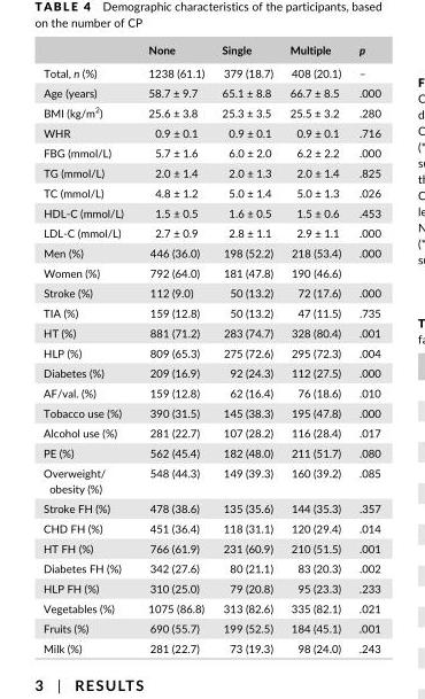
<table><thead><tr><td></td><td>None</td><td>Single</td><td>Multiple</td><td>p</td></tr></thead><tbody><tr><td>Total, n (%)</td><td>1238 (61.1)</td><td>379 (18.7)</td><td>408 (20.1)</td><td>–</td></tr><tr><td>Age (years)</td><td>58.7 ± 9.7</td><td>65.1 ± 8.8</td><td>66.7 ± 8.5</td><td>.000</td></tr><tr><td>BMI (kg/m<sup>2</sup>)</td><td>25.6 ± 3.8</td><td>25.3 ± 3.5</td><td>25.5 ± 3.2</td><td>.280</td></tr><tr><td>WHR</td><td>0.9 ± 0.1</td><td>0.9 ± 0.1</td><td>0.9 ± 0.1</td><td>.716</td></tr><tr><td>FBG (mmol/L)</td><td>5.7 ± 1.6</td><td>6.0 ± 2.0</td><td>6.2 ± 2.2</td><td>.000</td></tr><tr><td>TG (mmol/L)</td><td>2.0 ± 1.4</td><td>2.0 ± 1.3</td><td>2.0 ± 1.4</td><td>.825</td></tr><tr><td>TC (mmol/L)</td><td>4.8 ± 1.2</td><td>5.0 ± 1.4</td><td>5.0 ± 1.3</td><td>.026</td></tr><tr><td>HDL- C (mmol/L)</td><td>1.5 ± 0.5</td><td>1.6 ± 0.5</td><td>1.5 ± 0.6</td><td>.453</td></tr><tr><td>LDL- C (mmol/L)</td><td>2.7 ± 0.9</td><td>2.8 ± 1.1</td><td>2.9 ± 1.1</td><td>.000</td></tr><tr><td>Men (%)</td><td>446 (36.0)</td><td>198 (52.2)</td><td>218 (53.4)</td><td>.000</td></tr><tr><td>Women (%)</td><td>792 (64.0)</td><td>181 (47.8)</td><td>190 (46.6)</td><td></td></tr><tr><td>Stroke (%)</td><td>112 (9.0)</td><td>50 (13.2)</td><td>72 (17.6)</td><td>.000</td></tr><tr><td>TIA (%)</td><td>159 (12.8)</td><td>50 (13.2)</td><td>47 (11.5)</td><td>.735</td></tr><tr><td>HT (%)</td><td>881 (71.2)</td><td>283 (74.7)</td><td>328 (80.4)</td><td>.001</td></tr><tr><td>HLP (%)</td><td>809 (65.3)</td><td>275 (72.6)</td><td>295 (72.3)</td><td>.004</td></tr><tr><td>Diabetes (%)</td><td>209 (16.9)</td><td>92 (24.3)</td><td>112 (27.5)</td><td>.000</td></tr><tr><td>AF/val. (%)</td><td>159 (12.8)</td><td>62 (16.4)</td><td>76 (18.6)</td><td>.010</td></tr><tr><td>Tobacco use (%)</td><td>390 (31.5)</td><td>145 (38.3)</td><td>195 (47.8)</td><td>.000</td></tr><tr><td>Alcohol use (%)</td><td>281 (22.7)</td><td>107 (28.2)</td><td>116 (28.4)</td><td>.017</td></tr><tr><td>PE (%)</td><td>562 (45.4)</td><td>182 (48.0)</td><td>211 (51.7)</td><td>.080</td></tr><tr><td>Overweight/ obesity (%)</td><td>548 (44.3)</td><td>149 (39.3)</td><td>160 (39.2)</td><td>.085</td></tr><tr><td>Stroke FH (%)</td><td>478 (38.6)</td><td>135 (35.6)</td><td>144 (35.3)</td><td>.357</td></tr><tr><td>CHD FH (%)</td><td>451 (36.4)</td><td>118 (31.1)</td><td>120 (29.4)</td><td>.014</td></tr><tr><td>HT FH (%)</td><td>766 (61.9)</td><td>231 (60.9)</td><td>210 (51.5)</td><td>.001</td></tr><tr><td>Diabetes FH (%)</td><td>342 (27.6)</td><td>80 (21.1)</td><td>83 (20.3)</td><td>.002</td></tr><tr><td>HLP FH (%)</td><td>310 (25.0)</td><td>79 (20.8)</td><td>95 (23.3)</td><td>.233</td></tr><tr><td>Vegetables (%)</td><td>1075 (86.8)</td><td>313 (82.6)</td><td>335 (82.1)</td><td>.021</td></tr><tr><td>Fruits (%)</td><td>690 (55.7)</td><td>199 (52.5)</td><td>184 (45.1)</td><td>.001</td></tr><tr><td>Milk (%)</td><td>281 (22.7)</td><td>73 (19.3)</td><td>98 (24.0)</td><td>.243</td></tr></tbody></table>